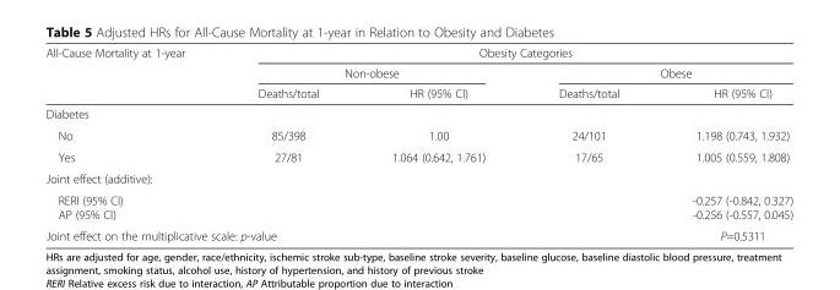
<table><thead><tr><td rowspan="3">All-Cause Mortality at 1-year</td><td colspan="4">Obesity Categories</td></tr><tr><td colspan="2">Non-obese</td><td colspan="2">Obese</td></tr><tr><td>Deaths/total</td><td>HR (95% CI)</td><td>Deaths/total</td><td>HR (95% CI)</td></tr></thead><tbody><tr><td colspan="5">Diabetes</td></tr><tr><td>No</td><td>85/398</td><td>1.00</td><td>24/101</td><td>1.198 (0.743, 1.932)</td></tr><tr><td>Yes</td><td>27/81</td><td>1.064 (0.642, 1.761)</td><td>17/65</td><td>1.005 (0.559, 1.808)</td></tr><tr><td colspan="5">Joint effect (additive):</td></tr><tr><td>RERI (95% CI) AP (95% CI)</td><td></td><td></td><td></td><td>-0.257 (-0.842, 0.327) -0.256 (-0.557, 0.045)</td></tr><tr><td colspan="4">Joint effect on the multiplicative scale: p-value</td><td>P=0.5311</td></tr></tbody></table>